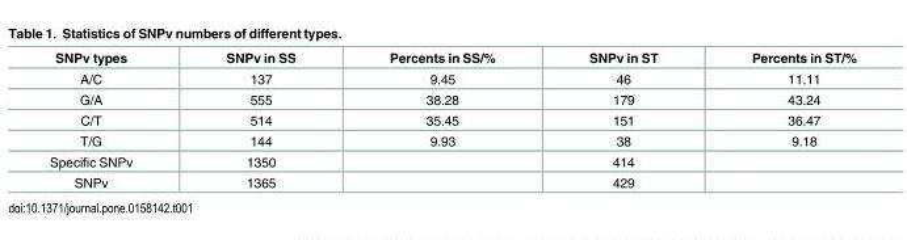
<table><thead><tr><td>SNPv types</td><td>SNPv in SS</td><td>Percents in SS/%</td><td>SNPv in ST</td><td>Percents in ST/%</td></tr></thead><tbody><tr><td>A/C</td><td>137</td><td>9.45</td><td>46</td><td>11.11</td></tr><tr><td>G/A</td><td>555</td><td>38.28</td><td>179</td><td>43.24</td></tr><tr><td>C/T</td><td>514</td><td>35.45</td><td>151</td><td>36.47</td></tr><tr><td>T/G</td><td>144</td><td>9.93</td><td>38</td><td>9.18</td></tr><tr><td>Specific SNPv</td><td>1350</td><td></td><td>414</td><td></td></tr><tr><td>SNPv</td><td>1365</td><td></td><td>429</td><td></td></tr></tbody></table>